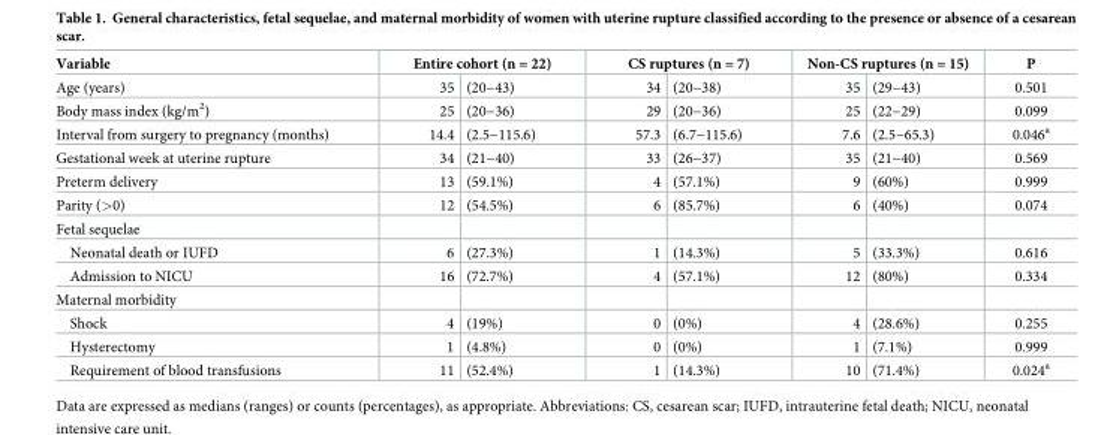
<table><thead><tr><td rowspan="2">Variable Age (years)</td><td colspan="2">Entire cohort (n = 22)</td><td colspan="2">CS ruptures (n = 7)</td><td colspan="2">Non-CS ruptures (n = 15)</td><td rowspan="2">P 0.501</td></tr><tr><td>35</td><td>(20−43)</td><td>34</td><td>(20−38)</td><td>35</td><td>(29−43)</td></tr></thead><tbody><tr><td>Body mass index (kg/m<sup>2</sup>)</td><td>25</td><td>(20−36)</td><td>29</td><td>(20−36)</td><td>25</td><td>(22−29)</td><td>0.099</td></tr><tr><td>Interval from surgery to pregnancy (months)</td><td>14.4</td><td>(2.5−115.6)</td><td>57.3</td><td>(6.7−115.6)</td><td>7.6</td><td>(2.5−65.3)</td><td>0.046<sup>a</sup></td></tr><tr><td>Gestational week at uterine rupture</td><td>34</td><td>(21−40)</td><td>33</td><td>(26−37)</td><td>35</td><td>(21−40)</td><td>0.569</td></tr><tr><td>Preterm delivery</td><td>13</td><td>(59.1%)</td><td>4</td><td>(57.1%)</td><td>9</td><td>(60%)</td><td>0.999</td></tr><tr><td>Parity (&gt;0)</td><td>12</td><td>(54.5%)</td><td>6</td><td>(85.7%)</td><td>6</td><td>(40%)</td><td>0.074</td></tr><tr><td colspan="8">Fetal sequelae</td></tr><tr><td>Neonatal death or IUFD</td><td>6</td><td>(27.3%)</td><td>1</td><td>(14.3%)</td><td>5</td><td>(33.3%)</td><td>0.616</td></tr><tr><td>Admission to NICU</td><td>16</td><td>(72.7%)</td><td>4</td><td>(57.1%)</td><td>12</td><td>(80%)</td><td>0.334</td></tr><tr><td colspan="8">Maternal morbidity</td></tr><tr><td>Shock</td><td>4</td><td>(19%)</td><td>0</td><td>(0%)</td><td>4</td><td>(28.6%)</td><td>0.255</td></tr><tr><td>Hysterectomy</td><td>1</td><td>(4.8%)</td><td>0</td><td>(0%)</td><td>1</td><td>(7.1%)</td><td>0.999</td></tr><tr><td>Requirement of blood transfusions</td><td>11</td><td>(52.4%)</td><td>1</td><td>(14.3%)</td><td>10</td><td>(71.4%)</td><td>0.024<sup>a</sup></td></tr></tbody></table>